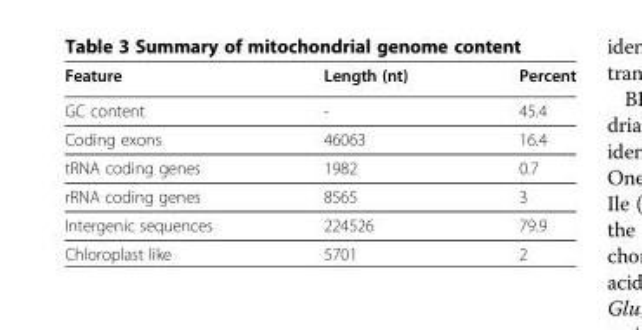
<table><thead><tr><td>Feature</td><td>Length (nt)</td><td>Percent</td></tr></thead><tbody><tr><td>GC content</td><td>-</td><td>45.4</td></tr><tr><td>Coding exons</td><td>46063</td><td>16.4</td></tr><tr><td>tRNA coding genes</td><td>1982</td><td>0.7</td></tr><tr><td>rRNA coding genes</td><td>8565</td><td>3</td></tr><tr><td>Intergenic sequences</td><td>224526</td><td>79.9</td></tr><tr><td>Chloroplast like</td><td>5701</td><td>2</td></tr></tbody></table>